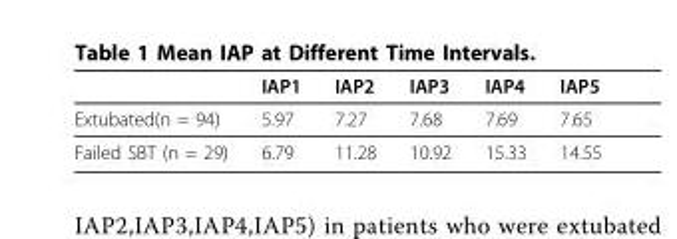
<table><thead><tr><td></td><td>IAP1</td><td>IAP2</td><td>IAP3</td><td>IAP4</td><td>IAP5</td></tr></thead><tbody><tr><td>Extubated(n = 94)</td><td>5.97</td><td>7.27</td><td>7.68</td><td>7.69</td><td>7.65</td></tr><tr><td>Failed SBT (n = 29)</td><td>6.79</td><td>11.28</td><td>10.92</td><td>15.33</td><td>14.55</td></tr></tbody></table>